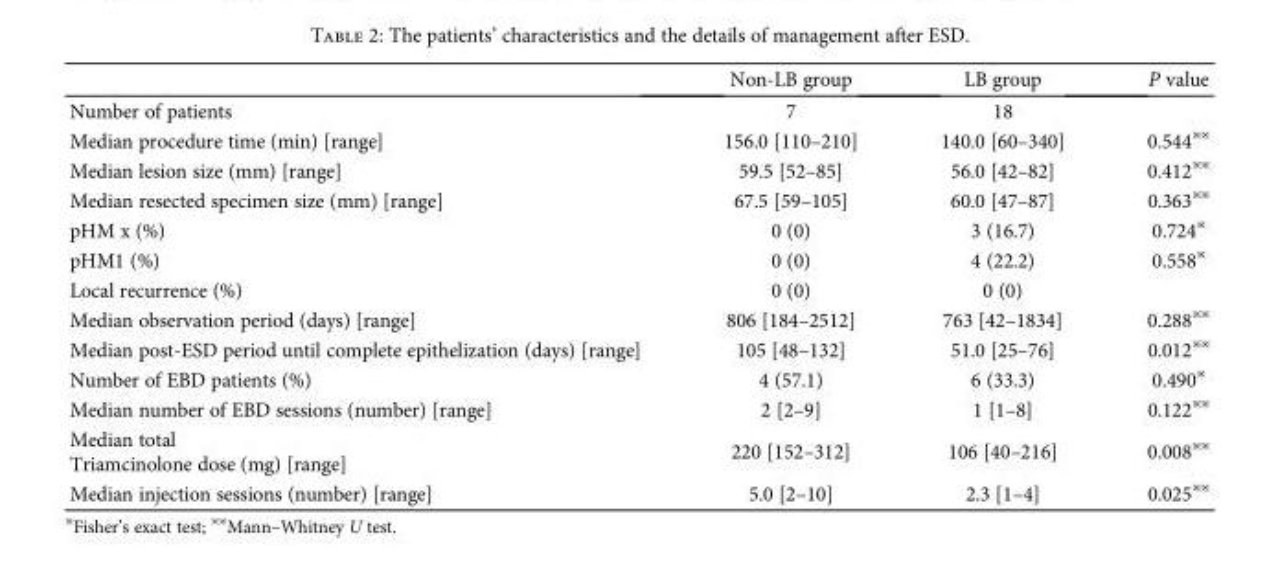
<table><thead><tr><td></td><td>Non-LB group</td><td>LB group</td><td>P value</td></tr></thead><tbody><tr><td>Number of patients</td><td>7</td><td>18</td><td></td></tr><tr><td>Median procedure time (min) [range]</td><td>156.0 [110–210]</td><td>140.0 [60–340]</td><td>0.544<sup>※※</sup></td></tr><tr><td>Median lesion size (mm) [range]</td><td>59.5 [52–85]</td><td>56.0 [42–82]</td><td>0.412<sup>※※</sup></td></tr><tr><td>Median resected specimen size (mm) [range]</td><td>67.5 [59–105]</td><td>60.0 [47–87]</td><td>0.363<sup>※※</sup></td></tr><tr><td>pHM x (%)</td><td>0 (0)</td><td>3 (16.7)</td><td>0.724<sup>※</sup></td></tr><tr><td>pHM1 (%)</td><td>0 (0)</td><td>4 (22.2)</td><td>0.558<sup>※</sup></td></tr><tr><td>Local recurrence (%)</td><td>0 (0)</td><td>0 (0)</td><td></td></tr><tr><td>Median observation period (days) [range]</td><td>806 [184–2512]</td><td>763 [42–1834]</td><td>0.288<sup>※※</sup></td></tr><tr><td>Median post-ESD period until complete epithelization (days) [range]</td><td>105 [48–132]</td><td>51.0 [25–76]</td><td>0.012<sup>※※</sup></td></tr><tr><td>Number of EBD patients (%)</td><td>4 (57.1)</td><td>6 (33.3)</td><td>0.490<sup>※</sup></td></tr><tr><td>Median number of EBD sessions (number) [range]</td><td>2 [2–9]</td><td>1 [1–8]</td><td>0.122<sup>※※</sup></td></tr><tr><td>Median total Triamcinolone dose (mg) [range]</td><td>220 [152–312]</td><td>106 [40–216]</td><td>0.008<sup>※※</sup></td></tr><tr><td>Median injection sessions (number) [range]</td><td>5.0 [2–10]</td><td>2.3 [1–4]</td><td>0.025<sup>※※</sup></td></tr></tbody></table>